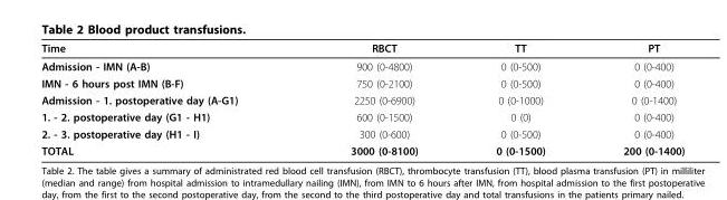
<table><thead><tr><td>Time</td><td>RBCT</td><td>TT</td><td>PT</td></tr></thead><tbody><tr><td>Admission - IMN (A-B)</td><td>900 (0-4800)</td><td>0 (0-500)</td><td>0 (0-400)</td></tr><tr><td>IMN - 6 hours post IMN (B-F)</td><td>750 (0-2100)</td><td>0 (0-500)</td><td>0 (0-400)</td></tr><tr><td>Admission - 1. postoperative day (A-G1)</td><td>2250 (0-6900)</td><td>0 (0-1000)</td><td>0 (0-1400)</td></tr><tr><td>1. - 2. postoperative day (G1 - H1)</td><td>600 (0-1500)</td><td>0 (0)</td><td>0 (0-400)</td></tr><tr><td>2. - 3. postoperative day (H1 - I)</td><td>300 (0-600)</td><td>0 (0-500)</td><td>0 (0-400)</td></tr><tr><td>TOTAL</td><td>3000 (0-8100)</td><td>0 (0-1500)</td><td>200 (0-1400)</td></tr></tbody></table>